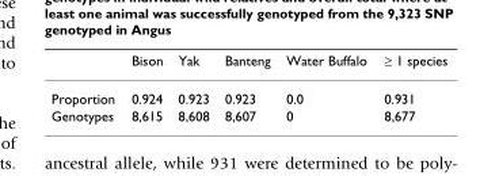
<table><thead><tr><td></td><td>Bison</td><td>Yak</td><td>Banteng</td><td>Water Buffalo</td><td>≥ 1 species</td></tr></thead><tbody><tr><td>Proportion</td><td>0.924</td><td>0.923</td><td>0.923</td><td>0.0</td><td>0.931</td></tr><tr><td>Genotypes</td><td>8,615</td><td>8,608</td><td>8,607</td><td>0</td><td>8,677</td></tr></tbody></table>